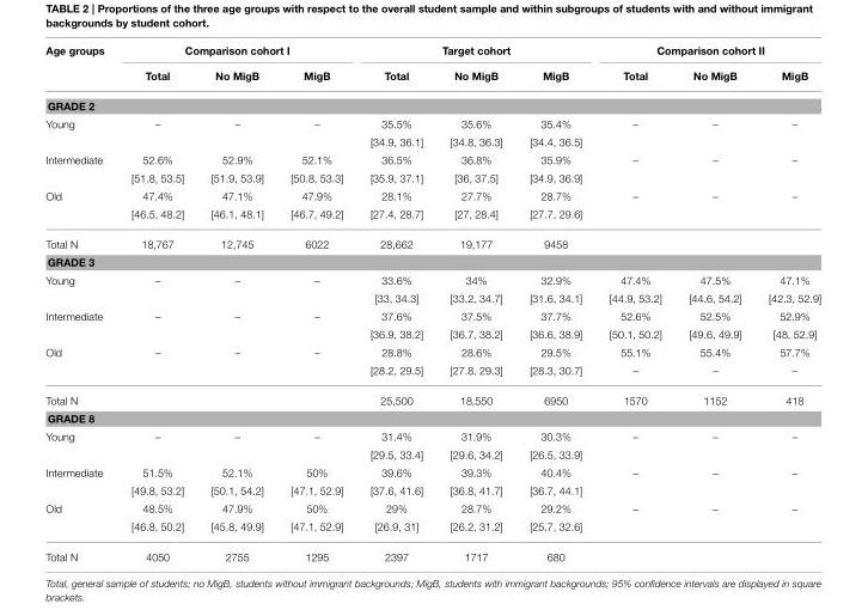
<table><thead><tr><td rowspan="2">Age groups</td><td colspan="3">Comparison cohort I</td><td colspan="3">Target cohort</td><td colspan="3">Comparison cohort II</td></tr><tr><td>Total</td><td>No MigB</td><td>MigB</td><td>Total</td><td>No MigB</td><td>MigB</td><td>Total</td><td>No MigB</td><td>MigB</td></tr></thead><tbody><tr><td colspan="10">GRADE 2</td></tr><tr><td rowspan="2">Young</td><td>–</td><td>–</td><td>–</td><td>35.5%</td><td>35.6%</td><td>35.4%</td><td>–</td><td>–</td><td>–</td></tr><tr><td></td><td></td><td></td><td>[34.9, 36.1]</td><td>[34.8, 36.3]</td><td>[34.4, 36.5]</td><td></td><td></td><td></td></tr><tr><td rowspan="2">Intermediate</td><td>52.6%</td><td>52.9%</td><td>52.1%</td><td>36.5%</td><td>36.8%</td><td>35.9%</td><td>–</td><td>–</td><td>–</td></tr><tr><td>[51.8, 53.5]</td><td>[51.9, 53.9]</td><td>[50.8, 53.3]</td><td>[35.9, 37.1]</td><td>[36, 37.5]</td><td>[34.9, 36.9]</td><td></td><td></td><td></td></tr><tr><td rowspan="2">Old</td><td>47.4%</td><td>47.1%</td><td>47.9%</td><td>28.1%</td><td>27.7%</td><td>28.7%</td><td>–</td><td>–</td><td>–</td></tr><tr><td>[46.5, 48.2]</td><td>[46.1, 48.1]</td><td>[46.7, 49.2]</td><td>[27.4, 28.7]</td><td>[27, 28.4]</td><td>[27.7, 29.6]</td><td></td><td></td><td></td></tr><tr><td>Total N</td><td>18,767</td><td>12,745</td><td>6022</td><td>28,662</td><td>19,177</td><td>9458</td><td></td><td></td><td></td></tr><tr><td colspan="10">GRADE 3</td></tr><tr><td rowspan="2">Young</td><td>–</td><td>–</td><td>–</td><td>33.6%</td><td>34%</td><td>32.9%</td><td>47.4%</td><td>47.5%</td><td>47.1%</td></tr><tr><td></td><td></td><td></td><td>[33, 34.3]</td><td>[33.2, 34.7]</td><td>[31.6, 34.1]</td><td>[44.9, 53.2]</td><td>[44.6, 54.2]</td><td>[42.3, 52.9]</td></tr><tr><td rowspan="2">Intermediate</td><td>–</td><td>–</td><td>–</td><td>37.6%</td><td>37.5%</td><td>37.7%</td><td>52.6%</td><td>52.5%</td><td>52.9%</td></tr><tr><td></td><td></td><td></td><td>[36.9, 38.2]</td><td>[36.7, 38.2]</td><td>[36.6, 38.9]</td><td>[50.1, 50.2]</td><td>[49.6, 49.9]</td><td>[48, 52.9]</td></tr><tr><td rowspan="2">Old</td><td>–</td><td>–</td><td>–</td><td>28.8%</td><td>28.6%</td><td>29.5%</td><td>55.1%</td><td>55.4%</td><td>57.7%</td></tr><tr><td></td><td></td><td></td><td>[28.2, 29.5]</td><td>[27.8, 29.3]</td><td>[28.3, 30.7]</td><td>–</td><td>–</td><td>–</td></tr><tr><td>Total N</td><td></td><td></td><td></td><td>25,500</td><td>18,550</td><td>6950</td><td>1570</td><td>1152</td><td>418</td></tr><tr><td colspan="10">GRADE 8</td></tr><tr><td rowspan="2">Young</td><td>–</td><td>–</td><td>–</td><td>31.4%</td><td>31.9%</td><td>30.3%</td><td>–</td><td>–</td><td>–</td></tr><tr><td></td><td></td><td></td><td>[29.5, 33.4]</td><td>[29.6, 34.2]</td><td>[26.5, 33.9]</td><td></td><td></td><td></td></tr><tr><td rowspan="2">Intermediate</td><td>51.5%</td><td>52.1%</td><td>50%</td><td>39.6%</td><td>39.3%</td><td>40.4%</td><td>–</td><td>–</td><td>–</td></tr><tr><td>[49.8, 53.2]</td><td>[50.1, 54.2]</td><td>[47.1, 52.9]</td><td>[37.6, 41.6]</td><td>[36.8, 41.7]</td><td>[36.7, 44.1]</td><td></td><td></td><td></td></tr><tr><td rowspan="2">Old</td><td>48.5%</td><td>47.9%</td><td>50%</td><td>29%</td><td>28.7%</td><td>29.2%</td><td>–</td><td>–</td><td>–</td></tr><tr><td>[46.8, 50.2]</td><td>[45.8, 49.9]</td><td>[47.1, 52.9]</td><td>[26.9, 31]</td><td>[26.2, 31.2]</td><td>[25.7, 32.6]</td><td></td><td></td><td></td></tr><tr><td>Total N</td><td>4050</td><td>2755</td><td>1295</td><td>2397</td><td>1717</td><td>680</td><td></td><td></td><td></td></tr></tbody></table>